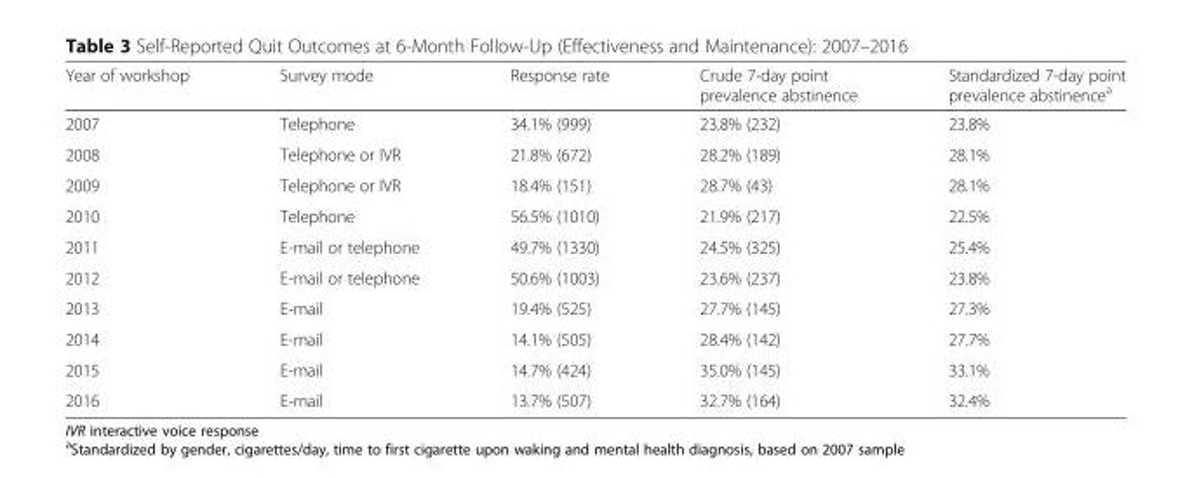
<table><thead><tr><td>Year of workshop</td><td>Survey mode</td><td>Response rate</td><td>Crude 7-day point prevalence abstinence</td><td>Standardized 7-day point prevalence abstinence<sup>a</sup></td></tr></thead><tbody><tr><td>2007</td><td>Telephone</td><td>34.1% (999)</td><td>23.8% (232)</td><td>23.8%</td></tr><tr><td>2008</td><td>Telephone or IVR</td><td>21.8% (672)</td><td>28.2% (189)</td><td>28.1%</td></tr><tr><td>2009</td><td>Telephone or IVR</td><td>18.4% (151)</td><td>28.7% (43)</td><td>28.1%</td></tr><tr><td>2010</td><td>Telephone</td><td>56.5% (1010)</td><td>21.9% (217)</td><td>22.5%</td></tr><tr><td>2011</td><td>E-mail or telephone</td><td>49.7% (1330)</td><td>24.5% (325)</td><td>25.4%</td></tr><tr><td>2012</td><td>E-mail or telephone</td><td>50.6% (1003)</td><td>23.6% (237)</td><td>23.8%</td></tr><tr><td>2013</td><td>E-mail</td><td>19.4% (525)</td><td>27.7% (145)</td><td>27.3%</td></tr><tr><td>2014</td><td>E-mail</td><td>14.1% (505)</td><td>28.4% (142)</td><td>27.7%</td></tr><tr><td>2015</td><td>E-mail</td><td>14.7% (424)</td><td>35.0% (145)</td><td>33.1%</td></tr><tr><td>2016</td><td>E-mail</td><td>13.7% (507)</td><td>32.7% (164)</td><td>32.4%</td></tr></tbody></table>